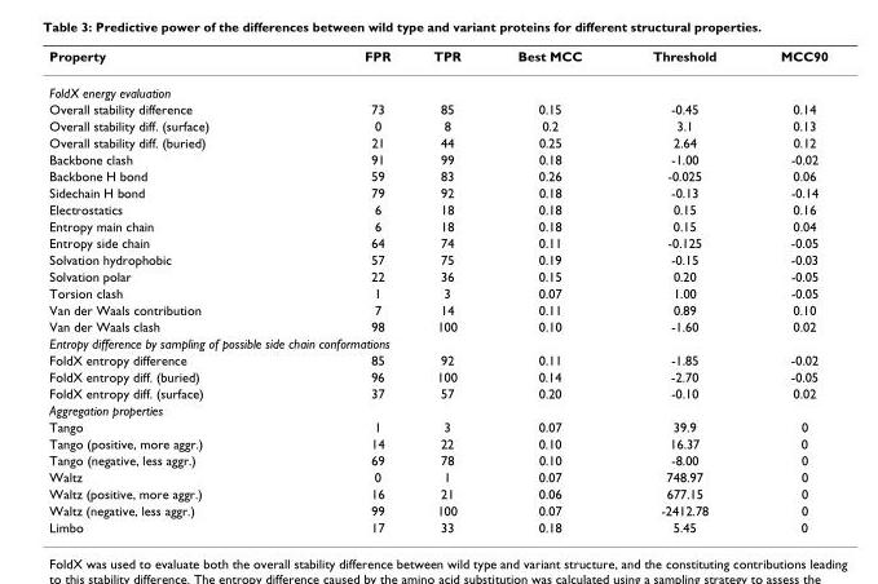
<table><thead><tr><td>Property</td><td>FPR</td><td>TPR</td><td>Best MCC</td><td>Threshold</td><td>MCC90</td></tr></thead><tbody><tr><td colspan="6">FoldX energy evaluation</td></tr><tr><td>Overall stability difference</td><td>73</td><td>85</td><td>0.15</td><td>-0.45</td><td>0.14</td></tr><tr><td>Overall stability diff. (surface)</td><td>0</td><td>8</td><td>0.2</td><td>3.1</td><td>0.13</td></tr><tr><td>Overall stability diff. (buried)</td><td>21</td><td>44</td><td>0.25</td><td>2.64</td><td>0.12</td></tr><tr><td>Backbone clash</td><td>91</td><td>99</td><td>0.18</td><td>-1.00</td><td>-0.02</td></tr><tr><td>Backbone H bond</td><td>59</td><td>83</td><td>0.26</td><td>-0.025</td><td>0.06</td></tr><tr><td>Sidechain H bond</td><td>79</td><td>92</td><td>0.18</td><td>-0.13</td><td>-0.14</td></tr><tr><td>Electrostatics</td><td>6</td><td>18</td><td>0.18</td><td>0.15</td><td>0.16</td></tr><tr><td>Entropy main chain</td><td>6</td><td>18</td><td>0.18</td><td>0.15</td><td>0.04</td></tr><tr><td>Entropy side chain</td><td>64</td><td>74</td><td>0.11</td><td>-0.125</td><td>-0.05</td></tr><tr><td>Solvation hydrophobic</td><td>57</td><td>75</td><td>0.19</td><td>-0.15</td><td>-0.03</td></tr><tr><td>Solvation polar</td><td>22</td><td>36</td><td>0.15</td><td>0.20</td><td>-0.05</td></tr><tr><td>Torsion clash</td><td>1</td><td>3</td><td>0.07</td><td>1.00</td><td>-0.05</td></tr><tr><td>Van der Waals contribution</td><td>7</td><td>14</td><td>0.11</td><td>0.89</td><td>0.10</td></tr><tr><td>Van der Waals clash</td><td>98</td><td>100</td><td>0.10</td><td>-1.60</td><td>0.02</td></tr><tr><td colspan="6">Entropy difference by sampling of possible side chain conformations</td></tr><tr><td>FoldX entropy difference</td><td>85</td><td>92</td><td>0.11</td><td>-1.85</td><td>-0.02</td></tr><tr><td>FoldX entropy diff. (buried)</td><td>96</td><td>100</td><td>0.14</td><td>-2.70</td><td>-0.05</td></tr><tr><td>FoldX entropy diff. (surface)</td><td>37</td><td>57</td><td>0.20</td><td>-0.10</td><td>0.02</td></tr><tr><td colspan="6">Aggregation properties</td></tr><tr><td>Tango</td><td>1</td><td>3</td><td>0.07</td><td>39.9</td><td>0</td></tr><tr><td>Tango (positive, more aggr.)</td><td>14</td><td>22</td><td>0.10</td><td>16.37</td><td>0</td></tr><tr><td>Tango (negative, less aggr.)</td><td>69</td><td>78</td><td>0.10</td><td>-8.00</td><td>0</td></tr><tr><td>Waltz</td><td>0</td><td>1</td><td>0.07</td><td>748.97</td><td>0</td></tr><tr><td>Waltz (positive, more aggr.)</td><td>16</td><td>21</td><td>0.06</td><td>677.15</td><td>0</td></tr><tr><td>Waltz (negative, less aggr.)</td><td>99</td><td>100</td><td>0.07</td><td>-2412.78</td><td>0</td></tr><tr><td>Limbo</td><td>17</td><td>33</td><td>0.18</td><td>5.45</td><td>0</td></tr></tbody></table>